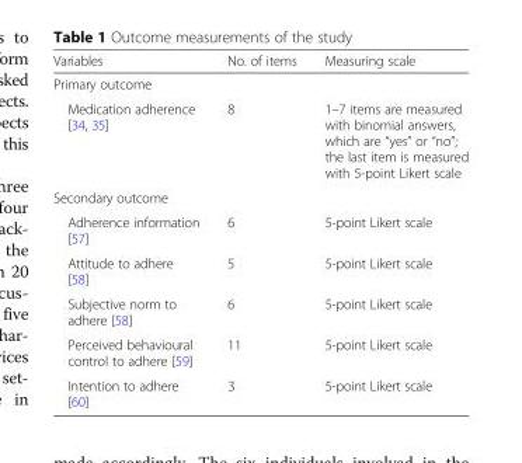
<table><thead><tr><td>Variables</td><td>No. of items</td><td>Measuring scale</td></tr></thead><tbody><tr><td colspan="3">Primary outcome</td></tr><tr><td>Medication adherence [34, 35]</td><td>8</td><td>1–7 items are measured with binomial answers, which are “yes” or “no”; the last item is measured with 5-point Likert scale</td></tr><tr><td colspan="3">Secondary outcome</td></tr><tr><td>Adherence information [57]</td><td>6</td><td>5-point Likert scale</td></tr><tr><td>Attitude to adhere [58]</td><td>5</td><td>5-point Likert scale</td></tr><tr><td>Subjective norm to adhere [58]</td><td>6</td><td>5-point Likert scale</td></tr><tr><td>Perceived behavioural control to adhere [59]</td><td>11</td><td>5-point Likert scale</td></tr><tr><td>Intention to adhere [60]</td><td>3</td><td>5-point Likert scale</td></tr></tbody></table>